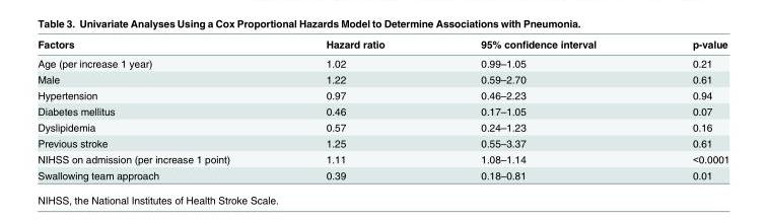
<table><thead><tr><td>Factors</td><td>Hazard ratio</td><td>95% confidence interval</td><td>p-value</td></tr></thead><tbody><tr><td>Age (per increase 1 year)</td><td>1.02</td><td>0.99–1.05</td><td>0.21</td></tr><tr><td>Male</td><td>1.22</td><td>0.59–2.70</td><td>0.61</td></tr><tr><td>Hypertension</td><td>0.97</td><td>0.46–2.23</td><td>0.94</td></tr><tr><td>Diabetes mellitus</td><td>0.46</td><td>0.17–1.05</td><td>0.07</td></tr><tr><td>Dyslipidemia</td><td>0.57</td><td>0.24–1.23</td><td>0.16</td></tr><tr><td>Previous stroke</td><td>1.25</td><td>0.55–3.37</td><td>0.61</td></tr><tr><td>NIHSS on admission (per increase 1 point)</td><td>1.11</td><td>1.08–1.14</td><td>&lt;0.0001</td></tr><tr><td>Swallowing team approach</td><td>0.39</td><td>0.18–0.81</td><td>0.01</td></tr></tbody></table>